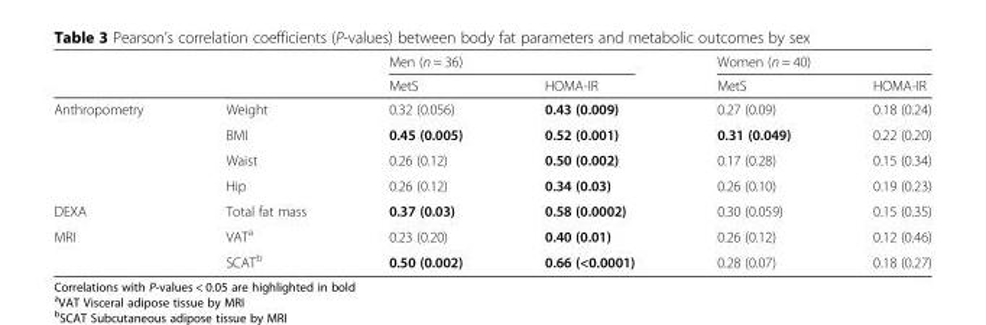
<table><thead><tr><td rowspan="2"></td><td rowspan="2"></td><td colspan="2">Men (n = 36)</td><td colspan="2">Women (n = 40)</td></tr><tr><td>MetS</td><td>HOMA-IR</td><td>MetS</td><td>HOMA-IR</td></tr></thead><tbody><tr><td rowspan="4">Anthropometry</td><td>Weight</td><td>0.32 (0.056)</td><td>0.43 (0.009)</td><td>0.27 (0.09)</td><td>0.18 (0.24)</td></tr><tr><td>BMI</td><td>0.45 (0.005)</td><td>0.52 (0.001)</td><td>0.31 (0.049)</td><td>0.22 (0.20)</td></tr><tr><td>Waist</td><td>0.26 (0.12)</td><td>0.50 (0.002)</td><td>0.17 (0.28)</td><td>0.15 (0.34)</td></tr><tr><td>Hip</td><td>0.26 (0.12)</td><td>0.34 (0.03)</td><td>0.26 (0.10)</td><td>0.19 (0.23)</td></tr><tr><td>DEXA</td><td>Total fat mass</td><td>0.37 (0.03)</td><td>0.58 (0.0002)</td><td>0.30 (0.059)</td><td>0.15 (0.35)</td></tr><tr><td rowspan="2">MRI</td><td>VAT<sup>a</sup></td><td>0.23 (0.20)</td><td>0.40 (0.01)</td><td>0.26 (0.12)</td><td>0.12 (0.46)</td></tr><tr><td>SCAT<sup>b</sup></td><td>0.50 (0.002)</td><td>0.66 (&lt;0.0001)</td><td>0.28 (0.07)</td><td>0.18 (0.27)</td></tr></tbody></table>